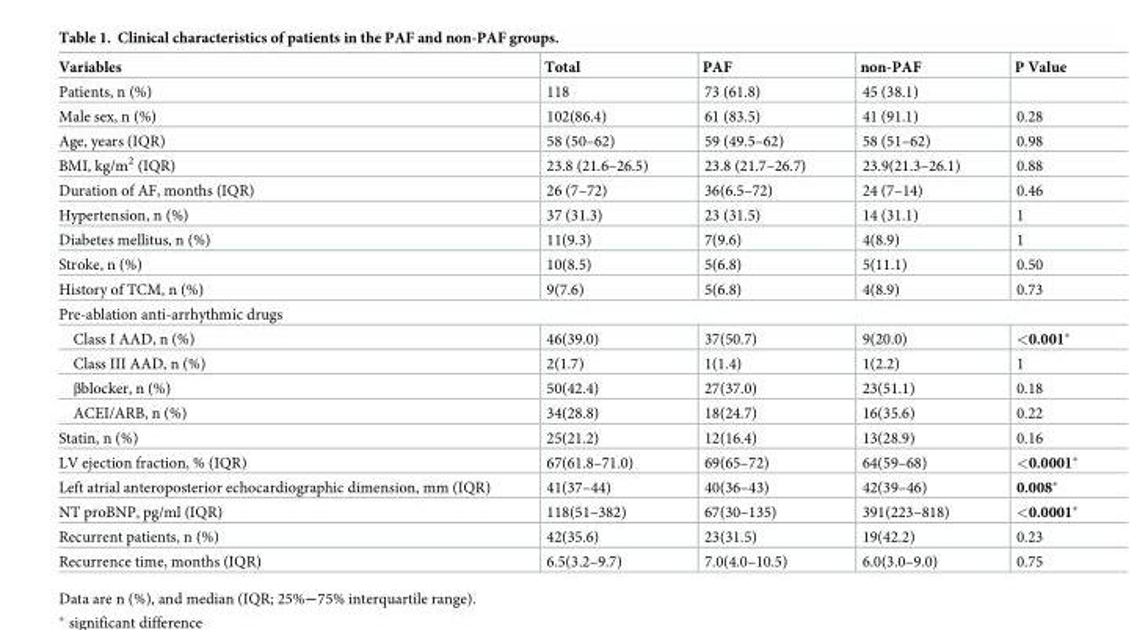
<table><thead><tr><td>Variables</td><td>Total</td><td>PAF</td><td>non-PAF</td><td>P Value</td></tr></thead><tbody><tr><td>Patients, n (%)</td><td>118</td><td>73 (61.8)</td><td>45 (38.1)</td><td></td></tr><tr><td>Male sex, n (%)</td><td>102(86.4)</td><td>61 (83.5)</td><td>41 (91.1)</td><td>0.28</td></tr><tr><td>Age, years (IQR)</td><td>58 (50–62)</td><td>59 (49.5–62)</td><td>58 (51–62)</td><td>0.98</td></tr><tr><td>BMI, kg/m<sup>2</sup> (IQR)</td><td>23.8 (21.6–26.5)</td><td>23.8 (21.7–26.7)</td><td>23.9(21.3–26.1)</td><td>0.88</td></tr><tr><td>Duration of AF, months (IQR)</td><td>26 (7–72)</td><td>36(6.5–72)</td><td>24 (7–14)</td><td>0.46</td></tr><tr><td>Hypertension, n (%)</td><td>37 (31.3)</td><td>23 (31.5)</td><td>14 (31.1)</td><td>1</td></tr><tr><td>Diabetes mellitus, n (%)</td><td>11(9.3)</td><td>7(9.6)</td><td>4(8.9)</td><td>1</td></tr><tr><td>Stroke, n (%)</td><td>10(8.5)</td><td>5(6.8)</td><td>5(11.1)</td><td>0.50</td></tr><tr><td>History of TCM, n (%)</td><td>9(7.6)</td><td>5(6.8)</td><td>4(8.9)</td><td>0.73</td></tr><tr><td colspan="5">Pre-ablation anti-arrhythmic drugs</td></tr><tr><td>Class I AAD, n (%)</td><td>46(39.0)</td><td>37(50.7)</td><td>9(20.0)</td><td>&lt;0.001*</td></tr><tr><td>Class III AAD, n (%)</td><td>2(1.7)</td><td>1(1.4)</td><td>1(2.2)</td><td>1</td></tr><tr><td>βblocker, n (%)</td><td>50(42.4)</td><td>27(37.0)</td><td>23(51.1)</td><td>0.18</td></tr><tr><td>ACEI/ARB, n (%)</td><td>34(28.8)</td><td>18(24.7)</td><td>16(35.6)</td><td>0.22</td></tr><tr><td>Statin, n (%)</td><td>25(21.2)</td><td>12(16.4)</td><td>13(28.9)</td><td>0.16</td></tr><tr><td>LV ejection fraction, % (IQR)</td><td>67(61.8–71.0)</td><td>69(65–72)</td><td>64(59–68)</td><td>&lt;0.0001*</td></tr><tr><td>Left atrial anteroposterior echocardiographic dimension, mm (IQR)</td><td>41(37–44)</td><td>40(36–43)</td><td>42(39–46)</td><td>0.008*</td></tr><tr><td>NT proBNP, pg/ml (IQR)</td><td>118(51–382)</td><td>67(30–135)</td><td>391(223–818)</td><td>&lt;0.0001*</td></tr><tr><td>Recurrent patients, n (%)</td><td>42(35.6)</td><td>23(31.5)</td><td>19(42.2)</td><td>0.23</td></tr><tr><td>Recurrence time, months (IQR)</td><td>6.5(3.2–9.7)</td><td>7.0(4.0–10.5)</td><td>6.0(3.0–9.0)</td><td>0.75</td></tr></tbody></table>